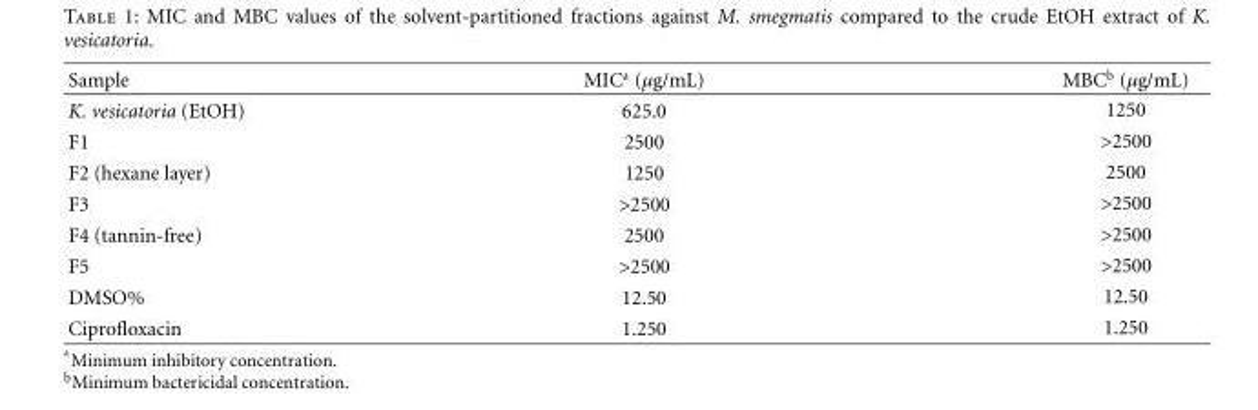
<table><thead><tr><td>Sample</td><td>MIC<sup>a</sup> (μg/mL)</td><td>MBC<sup>b</sup> (μg/mL)</td></tr></thead><tbody><tr><td>K. vesicatoria (EtOH)</td><td>625.0</td><td>1250</td></tr><tr><td>F1</td><td>2500</td><td>&gt;2500</td></tr><tr><td>F2 (hexane layer)</td><td>1250</td><td>2500</td></tr><tr><td>F3</td><td>&gt;2500</td><td>&gt;2500</td></tr><tr><td>F4 (tannin-free)</td><td>2500</td><td>&gt;2500</td></tr><tr><td>F5</td><td>&gt;2500</td><td>&gt;2500</td></tr><tr><td>DMSO%</td><td>12.50</td><td>12.50</td></tr><tr><td>Ciprofloxacin</td><td>1.250</td><td>1.250</td></tr></tbody></table>